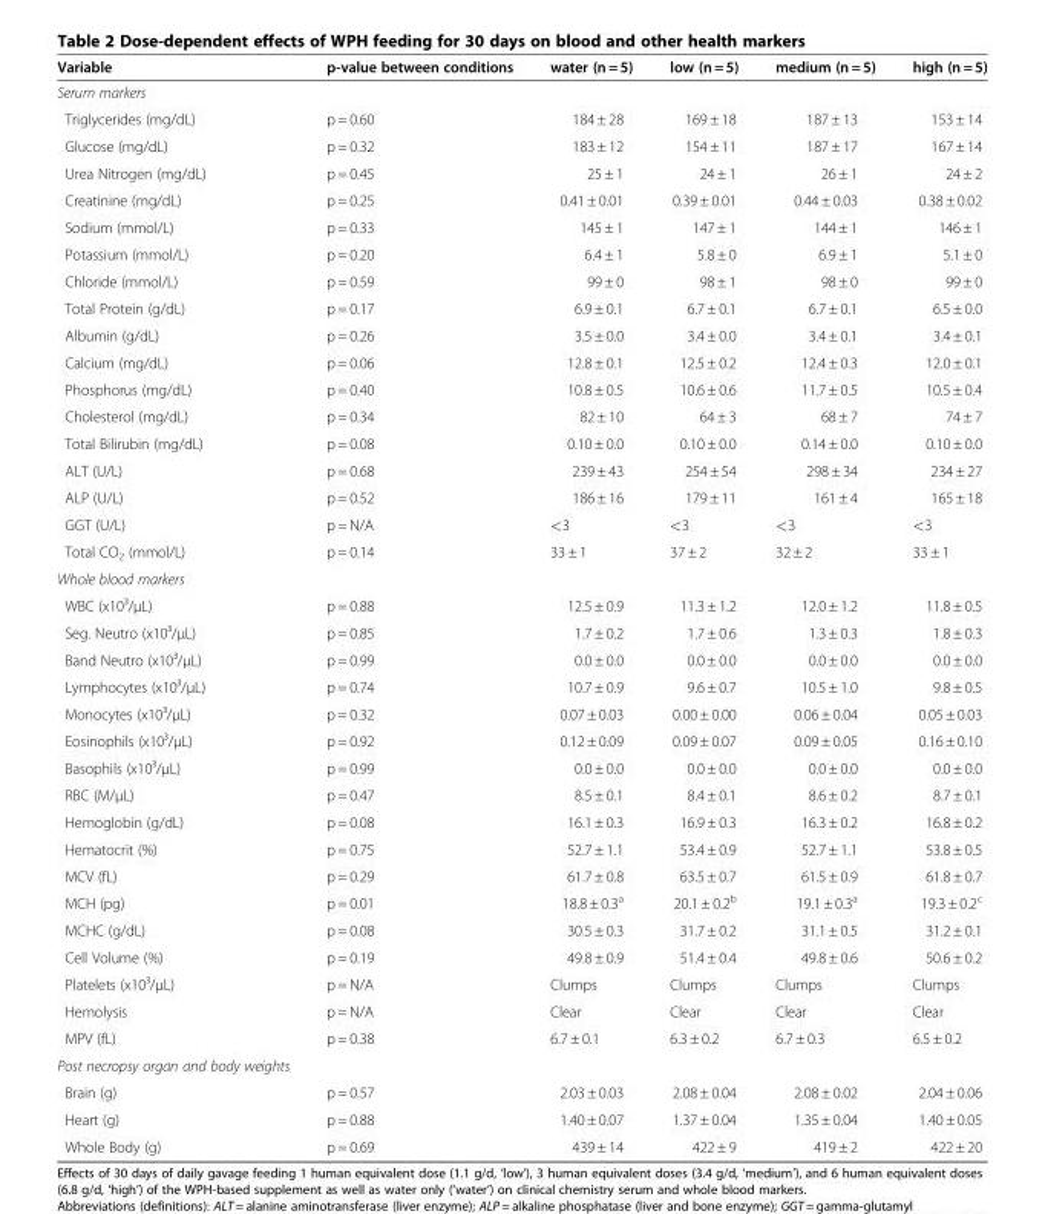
<table><thead><tr><td>Variable</td><td>p-value between conditions</td><td>water (n = 5)</td><td>low (n = 5)</td><td>medium (n = 5)</td><td>high (n = 5)</td></tr></thead><tbody><tr><td colspan="6">Serum markers</td></tr><tr><td>Triglycerides (mg/dL)</td><td>p = 0.60</td><td>184 ± 28</td><td>169 ± 18</td><td>187 ± 13</td><td>153 ± 14</td></tr><tr><td>Glucose (mg/dL)</td><td>p = 0.32</td><td>183 ± 12</td><td>154 ± 11</td><td>187 ± 17</td><td>167 ± 14</td></tr><tr><td>Urea Nitrogen (mg/dL)</td><td>p = 0.45</td><td>25 ± 1</td><td>24 ± 1</td><td>26 ± 1</td><td>24 ± 2</td></tr><tr><td>Creatinine (mg/dL)</td><td>p = 0.25</td><td>0.41 ± 0.01</td><td>0.39 ± 0.01</td><td>0.44 ± 0.03</td><td>0.38 ± 0.02</td></tr><tr><td>Sodium (mmol/L)</td><td>p = 0.33</td><td>145 ± 1</td><td>147 ± 1</td><td>144 ± 1</td><td>146 ± 1</td></tr><tr><td>Potassium (mmol/L)</td><td>p = 0.20</td><td>6.4 ± 1</td><td>5.8 ± 0</td><td>6.9 ± 1</td><td>5.1 ± 0</td></tr><tr><td>Chloride (mmol/L)</td><td>p = 0.59</td><td>99 ± 0</td><td>98 ± 1</td><td>98 ± 0</td><td>99 ± 0</td></tr><tr><td>Total Protein (g/dL)</td><td>p = 0.17</td><td>6.9 ± 0.1</td><td>6.7 ± 0.1</td><td>6.7 ± 0.1</td><td>6.5 ± 0.0</td></tr><tr><td>Albumin (g/dL)</td><td>p = 0.26</td><td>3.5 ± 0.0</td><td>3.4 ± 0.0</td><td>3.4 ± 0.1</td><td>3.4 ± 0.1</td></tr><tr><td>Calcium (mg/dL)</td><td>p = 0.06</td><td>12.8 ± 0.1</td><td>12.5 ± 0.2</td><td>12.4 ± 0.3</td><td>12.0 ± 0.1</td></tr><tr><td>Phosphorus (mg/dL)</td><td>p = 0.40</td><td>10.8 ± 0.5</td><td>10.6 ± 0.6</td><td>11.7 ± 0.5</td><td>10.5 ± 0.4</td></tr><tr><td>Cholesterol (mg/dL)</td><td>p = 0.34</td><td>82 ± 10</td><td>64 ± 3</td><td>68 ± 7</td><td>74 ± 7</td></tr><tr><td>Total Bilirubin (mg/dL)</td><td>p = 0.08</td><td>0.10 ± 0.0</td><td>0.10 ± 0.0</td><td>0.14 ± 0.0</td><td>0.10 ± 0.0</td></tr><tr><td>ALT (U/L)</td><td>p = 0.68</td><td>239 ± 43</td><td>254 ± 54</td><td>298 ± 34</td><td>234 ± 27</td></tr><tr><td>ALP (U/L)</td><td>p = 0.52</td><td>186 ± 16</td><td>179 ± 11</td><td>161 ± 4</td><td>165 ± 18</td></tr><tr><td>GGT (U/L)</td><td>p = N/A</td><td>&lt;3</td><td>&lt;3</td><td>&lt;3</td><td>&lt;3</td></tr><tr><td>Total CO<sub>2</sub> (mmol/L)</td><td>p = 0.14</td><td>33 ± 1</td><td>37 ± 2</td><td>32 ± 2</td><td>33 ± 1</td></tr><tr><td colspan="6">Whole blood markers</td></tr><tr><td>WBC (x10³/μL)</td><td>p = 0.88</td><td>12.5 ± 0.9</td><td>11.3 ± 1.2</td><td>12.0 ± 1.2</td><td>11.8 ± 0.5</td></tr><tr><td>Seg. Neutro (x10³/μL)</td><td>p = 0.85</td><td>1.7 ± 0.2</td><td>1.7 ± 0.6</td><td>1.3 ± 0.3</td><td>1.8 ± 0.3</td></tr><tr><td>Band Neutro (x10³/μL)</td><td>p = 0.99</td><td>0.0 ± 0.0</td><td>0.0 ± 0.0</td><td>0.0 ± 0.0</td><td>0.0 ± 0.0</td></tr><tr><td>Lymphocytes (x10³/μL)</td><td>p = 0.74</td><td>10.7 ± 0.9</td><td>9.6 ± 0.7</td><td>10.5 ± 1.0</td><td>9.8 ± 0.5</td></tr><tr><td>Monocytes (x10³/μL)</td><td>p = 0.32</td><td>0.07 ± 0.03</td><td>0.00 ± 0.00</td><td>0.06 ± 0.04</td><td>0.05 ± 0.03</td></tr><tr><td>Eosinophils (x10³/μL)</td><td>p = 0.92</td><td>0.12 ± 0.09</td><td>0.09 ± 0.07</td><td>0.09 ± 0.05</td><td>0.16 ± 0.10</td></tr><tr><td>Basophils (x10³/μL)</td><td>p = 0.99</td><td>0.0 ± 0.0</td><td>0.0 ± 0.0</td><td>0.0 ± 0.0</td><td>0.0 ± 0.0</td></tr><tr><td>RBC (M/μL)</td><td>p = 0.47</td><td>8.5 ± 0.1</td><td>8.4 ± 0.1</td><td>8.6 ± 0.2</td><td>8.7 ± 0.1</td></tr><tr><td>Hemoglobin (g/dL)</td><td>p = 0.08</td><td>16.1 ± 0.3</td><td>16.9 ± 0.3</td><td>16.3 ± 0.2</td><td>16.8 ± 0.2</td></tr><tr><td>Hematocrit (%)</td><td>p = 0.75</td><td>52.7 ± 1.1</td><td>53.4 ± 0.9</td><td>52.7 ± 1.1</td><td>53.8 ± 0.5</td></tr><tr><td>MCV (fL)</td><td>p = 0.29</td><td>61.7 ± 0.8</td><td>63.5 ± 0.7</td><td>61.5 ± 0.9</td><td>61.8 ± 0.7</td></tr><tr><td>MCH (pg)</td><td>p = 0.01</td><td>18.8 ± 0.3<sup>a</sup></td><td>20.1 ± 0.2<sup>b</sup></td><td>19.1 ± 0.3<sup>a</sup></td><td>19.3 ± 0.2<sup>c</sup></td></tr><tr><td>MCHC (g/dL)</td><td>p = 0.08</td><td>30.5 ± 0.3</td><td>31.7 ± 0.2</td><td>31.1 ± 0.5</td><td>31.2 ± 0.1</td></tr><tr><td>Cell Volume (%)</td><td>p = 0.19</td><td>49.8 ± 0.9</td><td>51.4 ± 0.4</td><td>49.8 ± 0.6</td><td>50.6 ± 0.2</td></tr><tr><td>Platelets (x10³/μL)</td><td>p = N/A</td><td>Clumps</td><td>Clumps</td><td>Clumps</td><td>Clumps</td></tr><tr><td>Hemolysis</td><td>p = N/A</td><td>Clear</td><td>Clear</td><td>Clear</td><td>Clear</td></tr><tr><td>MPV (fL)</td><td>p = 0.38</td><td>6.7 ± 0.1</td><td>6.3 ± 0.2</td><td>6.7 ± 0.3</td><td>6.5 ± 0.2</td></tr><tr><td colspan="6">Post necropsy organ and body weights</td></tr><tr><td>Brain (g)</td><td>p = 0.57</td><td>2.03 ± 0.03</td><td>2.08 ± 0.04</td><td>2.08 ± 0.02</td><td>2.04 ± 0.06</td></tr><tr><td>Heart (g)</td><td>p = 0.88</td><td>1.40 ± 0.07</td><td>1.37 ± 0.04</td><td>1.35 ± 0.04</td><td>1.40 ± 0.05</td></tr><tr><td>Whole Body (g)</td><td>p = 0.69</td><td>439 ± 14</td><td>422 ± 9</td><td>419 ± 2</td><td>422 ± 20</td></tr></tbody></table>